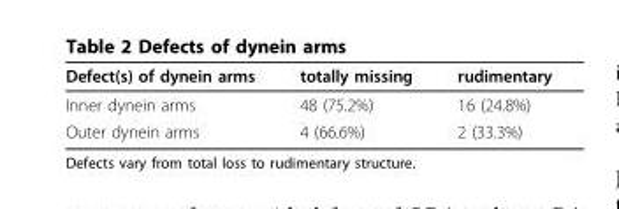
<table><thead><tr><td>Defect(s) of dynein arms</td><td>totally missing</td><td>rudimentary</td></tr></thead><tbody><tr><td>Inner dynein arms</td><td>48 (75.2%)</td><td>16 (24.8%)</td></tr><tr><td>Outer dynein arms</td><td>4 (66.6%)</td><td>2 (33.3%)</td></tr></tbody></table>